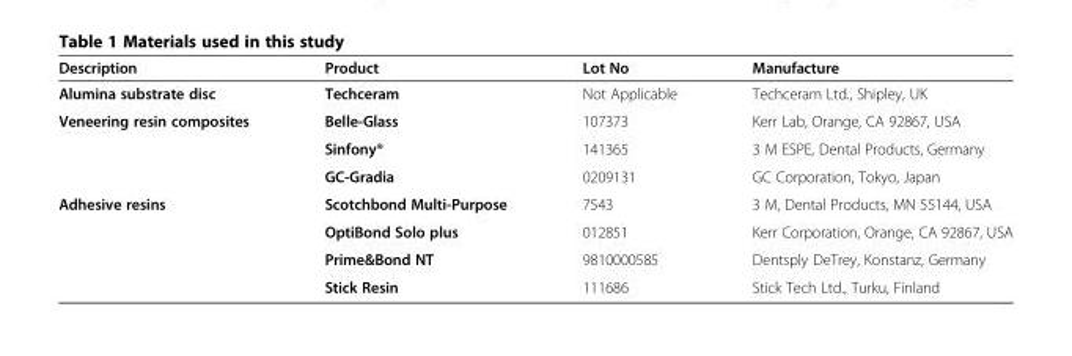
<table><thead><tr><td>Description</td><td>Product</td><td>Lot No</td><td>Manufacture</td></tr></thead><tbody><tr><td>Alumina substrate disc</td><td>Techceram</td><td>Not Applicable</td><td>Techceram Ltd., Shipley, UK</td></tr><tr><td rowspan="3">Veneering resin composites</td><td>Belle-Glass</td><td>107373</td><td>Kerr Lab, Orange, CA 92867, USA</td></tr><tr><td>Sinfony®</td><td>141365</td><td>3 M ESPE, Dental Products, Germany</td></tr><tr><td>GC-Gradia</td><td>0209131</td><td>GC Corporation, Tokyo, Japan</td></tr><tr><td rowspan="4">Adhesive resins</td><td>Scotchbond Multi-Purpose</td><td>7543</td><td>3 M, Dental Products, MN 55144, USA</td></tr><tr><td>OptiBond Solo plus</td><td>012851</td><td>Kerr Corporation, Orange, CA 92867, USA</td></tr><tr><td>Prime&amp;Bond NT</td><td>9810000585</td><td>Dentsply DeTrey, Konstanz, Germany</td></tr><tr><td>Stick Resin</td><td>111686</td><td>Stick Tech Ltd., Turku, Finland</td></tr></tbody></table>